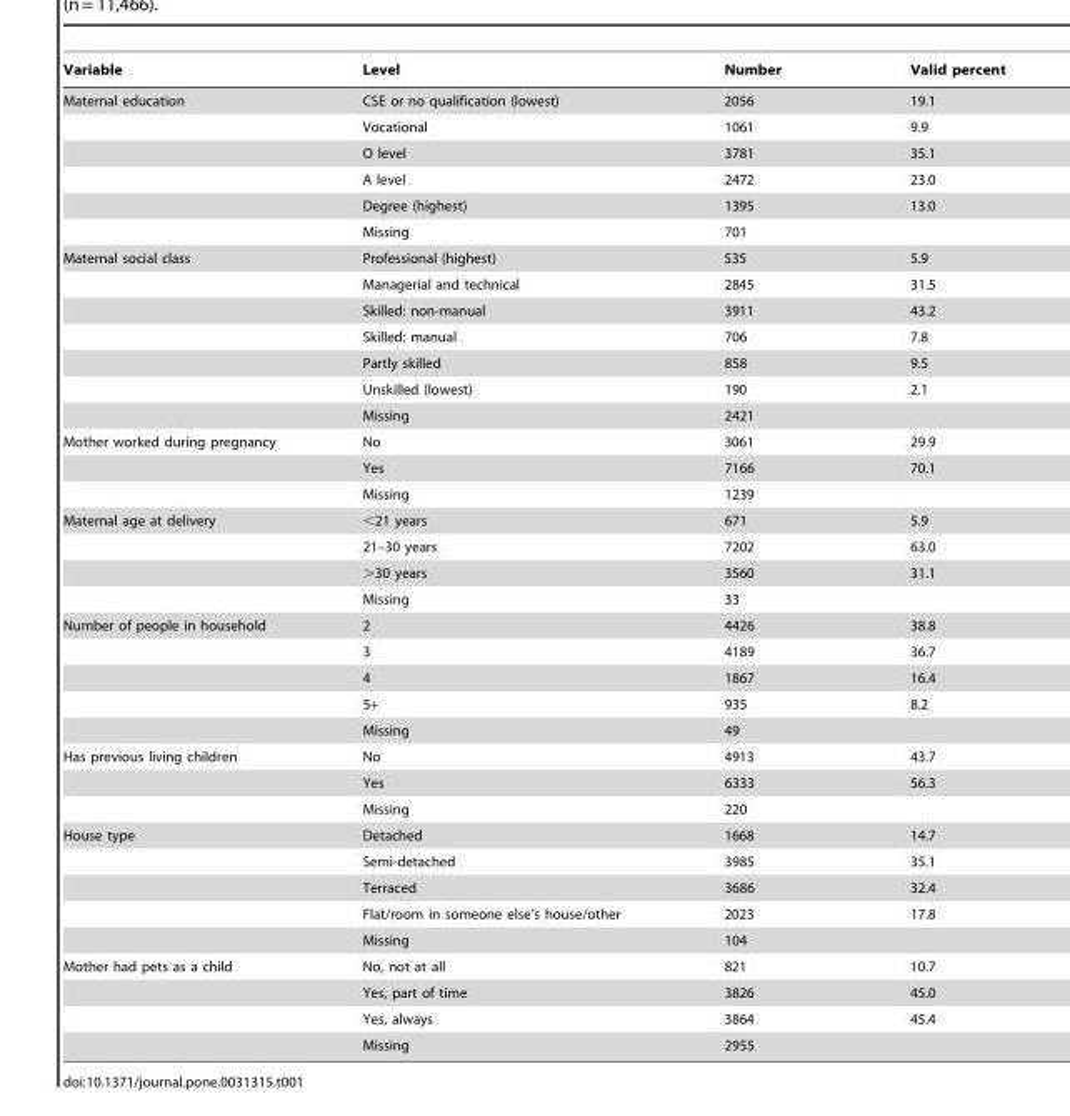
<table><thead><tr><td>Variable</td><td>Level</td><td>Number</td><td>Valid percent</td></tr></thead><tbody><tr><td rowspan="6">Maternal education</td><td>CSE or no qualification (lowest)</td><td>2056</td><td>19.1</td></tr><tr><td>Vocational</td><td>1061</td><td>9.9</td></tr><tr><td>O level</td><td>3781</td><td>35.1</td></tr><tr><td>A level</td><td>2472</td><td>23.0</td></tr><tr><td>Degree (highest)</td><td>1395</td><td>13.0</td></tr><tr><td>Missing</td><td>701</td><td></td></tr><tr><td rowspan="7">Maternal social class</td><td>Professional (highest)</td><td>535</td><td>5.9</td></tr><tr><td>Managerial and technical</td><td>2845</td><td>31.5</td></tr><tr><td>Skilled: non-manual</td><td>3911</td><td>43.2</td></tr><tr><td>Skilled: manual</td><td>706</td><td>7.8</td></tr><tr><td>Partly skilled</td><td>858</td><td>9.5</td></tr><tr><td>Unskilled (lowest)</td><td>190</td><td>2.1</td></tr><tr><td>Missing</td><td>2421</td><td></td></tr><tr><td rowspan="3">Mother worked during pregnancy</td><td>No</td><td>3061</td><td>29.9</td></tr><tr><td>Yes</td><td>7166</td><td>70.1</td></tr><tr><td>Missing</td><td>1239</td><td></td></tr><tr><td rowspan="4">Maternal age at delivery</td><td>&lt;21 years</td><td>671</td><td>5.9</td></tr><tr><td>21–30 years</td><td>7202</td><td>63.0</td></tr><tr><td>&gt;30 years</td><td>3560</td><td>31.1</td></tr><tr><td>Missing</td><td>33</td><td></td></tr><tr><td rowspan="5">Number of people in household</td><td>2</td><td>4426</td><td>38.8</td></tr><tr><td>3</td><td>4189</td><td>36.7</td></tr><tr><td>4</td><td>1867</td><td>16.4</td></tr><tr><td>5+</td><td>935</td><td>8.2</td></tr><tr><td>Missing</td><td>49</td><td></td></tr><tr><td rowspan="3">Has previous living children</td><td>No</td><td>4913</td><td>43.7</td></tr><tr><td>Yes</td><td>6333</td><td>56.3</td></tr><tr><td>Missing</td><td>220</td><td></td></tr><tr><td rowspan="5">House type</td><td>Detached</td><td>1668</td><td>14.7</td></tr><tr><td>Semi-detached</td><td>3985</td><td>35.1</td></tr><tr><td>Terraced</td><td>3686</td><td>32.4</td></tr><tr><td>Flat/room in someone else’s house/other</td><td>2023</td><td>17.8</td></tr><tr><td>Missing</td><td>104</td><td></td></tr><tr><td rowspan="4">Mother had pets as a child</td><td>No, not at all</td><td>821</td><td>10.7</td></tr><tr><td>Yes, part of time</td><td>3826</td><td>45.0</td></tr><tr><td>Yes, always</td><td>3864</td><td>45.4</td></tr><tr><td>Missing</td><td>2955</td><td></td></tr></tbody></table>